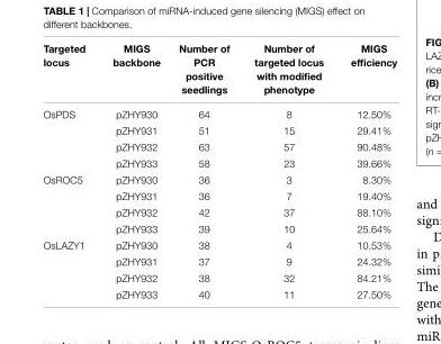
<table><thead><tr><td>Targeted locus</td><td>MIGS backbone</td><td>Number of PCR positive seedlings</td><td>Number of targeted locus with modified phenotype</td><td>MIGS efficiency</td></tr></thead><tbody><tr><td rowspan="4">OsPDS</td><td>pZHY930</td><td>64</td><td>8</td><td>12.50%</td></tr><tr><td>pZHY931</td><td>51</td><td>15</td><td>29.41%</td></tr><tr><td>pZHY932</td><td>63</td><td>57</td><td>90.48%</td></tr><tr><td>pZHY933</td><td>58</td><td>23</td><td>39.66%</td></tr><tr><td rowspan="4">OsROC5</td><td>pZHY930</td><td>36</td><td>3</td><td>8.30%</td></tr><tr><td>pZHY931</td><td>36</td><td>7</td><td>19.40%</td></tr><tr><td>pZHY932</td><td>42</td><td>37</td><td>88.10%</td></tr><tr><td>pZHY933</td><td>39</td><td>10</td><td>25.64%</td></tr><tr><td rowspan="4">OsLAZY1</td><td>pZHY930</td><td>38</td><td>4</td><td>10.53%</td></tr><tr><td>pZHY931</td><td>37</td><td>9</td><td>24.32%</td></tr><tr><td>pZHY932</td><td>38</td><td>32</td><td>84.21%</td></tr><tr><td>pZHY933</td><td>40</td><td>11</td><td>27.50%</td></tr></tbody></table>